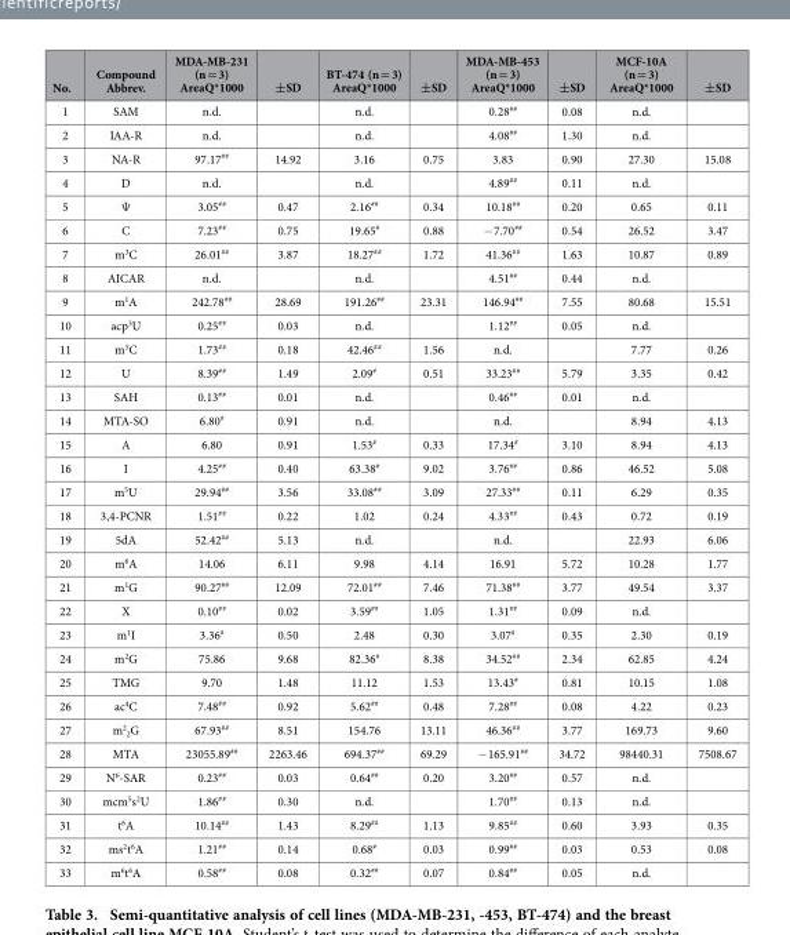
<table><thead><tr><td>No.</td><td>Compound Abbrev.</td><td>MDA-MB-231 (n = 3) AreaQ*1000</td><td>±SD</td><td>BT-474 (n = 3) AreaQ*1000</td><td>±SD</td><td>MDA-MB-453 (n = 3) AreaQ*1000</td><td>±SD</td><td>MCF-10A (n = 3) AreaQ*1000</td><td>±SD</td></tr></thead><tbody><tr><td>1</td><td>SAM</td><td>n.d.</td><td></td><td>n.d.</td><td></td><td>0.28<sup>##</sup></td><td>0.08</td><td>n.d.</td><td></td></tr><tr><td>2</td><td>IAA-R</td><td>n.d.</td><td></td><td>n.d.</td><td></td><td>4.08<sup>##</sup></td><td>1.30</td><td>n.d.</td><td></td></tr><tr><td>3</td><td>NA-R</td><td>97.17<sup>##</sup></td><td>14.92</td><td>3.16</td><td>0.75</td><td>3.83</td><td>0.90</td><td>27.30</td><td>15.08</td></tr><tr><td>4</td><td>D</td><td>n.d.</td><td></td><td>n.d.</td><td></td><td>4.89<sup>##</sup></td><td>0.11</td><td>n.d.</td><td></td></tr><tr><td>5</td><td>Ψ</td><td>3.05<sup>##</sup></td><td>0.47</td><td>2.16<sup>##</sup></td><td>0.34</td><td>10.18<sup>##</sup></td><td>0.20</td><td>0.65</td><td>0.11</td></tr><tr><td>6</td><td>C</td><td>7.23<sup>##</sup></td><td>0.75</td><td>19.65<sup>#</sup></td><td>0.88</td><td>− 7.70<sup>##</sup></td><td>0.54</td><td>26.52</td><td>3.47</td></tr><tr><td>7</td><td>m<sup>3</sup>C</td><td>26.01<sup>##</sup></td><td>3.87</td><td>18.27<sup>##</sup></td><td>1.72</td><td>41.36<sup>##</sup></td><td>1.63</td><td>10.87</td><td>0.89</td></tr><tr><td>8</td><td>AICAR</td><td>n.d.</td><td></td><td>n.d.</td><td></td><td>4.51<sup>##</sup></td><td>0.44</td><td>n.d.</td><td></td></tr><tr><td>9</td><td>m<sup>1</sup>A</td><td>242.78<sup>##</sup></td><td>28.69</td><td>191.26<sup>##</sup></td><td>23.31</td><td>146.94<sup>##</sup></td><td>7.55</td><td>80.68</td><td>15.51</td></tr><tr><td>10</td><td>acp<sup>3</sup>U</td><td>0.25<sup>##</sup></td><td>0.03</td><td>n.d.</td><td></td><td>1.12<sup>##</sup></td><td>0.05</td><td>n.d.</td><td></td></tr><tr><td>11</td><td>m<sup>5</sup>C</td><td>1.73<sup>##</sup></td><td>0.18</td><td>42.46<sup>##</sup></td><td>1.56</td><td>n.d.</td><td></td><td>7.77</td><td>0.26</td></tr><tr><td>12</td><td>U</td><td>8.39<sup>##</sup></td><td>1.49</td><td>2.09<sup>#</sup></td><td>0.51</td><td>33.23<sup>##</sup></td><td>5.79</td><td>3.35</td><td>0.42</td></tr><tr><td>13</td><td>SAH</td><td>0.13<sup>##</sup></td><td>0.01</td><td>n.d.</td><td></td><td>0.46<sup>##</sup></td><td>0.01</td><td>n.d.</td><td></td></tr><tr><td>14</td><td>MTA-SO</td><td>6.80<sup>#</sup></td><td>0.91</td><td>n.d.</td><td></td><td>n.d.</td><td></td><td>8.94</td><td>4.13</td></tr><tr><td>15</td><td>A</td><td>6.80</td><td>0.91</td><td>1.53<sup>#</sup></td><td>0.33</td><td>17.34<sup>#</sup></td><td>3.10</td><td>8.94</td><td>4.13</td></tr><tr><td>16</td><td>I</td><td>4.25<sup>##</sup></td><td>0.40</td><td>63.38<sup>#</sup></td><td>9.02</td><td>3.76<sup>##</sup></td><td>0.86</td><td>46.52</td><td>5.08</td></tr><tr><td>17</td><td>m<sup>5</sup>U</td><td>29.94<sup>##</sup></td><td>3.56</td><td>33.08<sup>##</sup></td><td>3.09</td><td>27.33<sup>##</sup></td><td>0.11</td><td>6.29</td><td>0.35</td></tr><tr><td>18</td><td>3,4-PCNR</td><td>1.51<sup>##</sup></td><td>0.22</td><td>1.02</td><td>0.24</td><td>4.33<sup>##</sup></td><td>0.43</td><td>0.72</td><td>0.19</td></tr><tr><td>19</td><td>5dA</td><td>52.42<sup>##</sup></td><td>5.13</td><td>n.d.</td><td></td><td>n.d.</td><td></td><td>22.93</td><td>6.06</td></tr><tr><td>20</td><td>m<sup>6</sup>A</td><td>14.06</td><td>6.11</td><td>9.98</td><td>4.14</td><td>16.91</td><td>5.72</td><td>10.28</td><td>1.77</td></tr><tr><td>21</td><td>m<sup>1</sup>G</td><td>90.27<sup>##</sup></td><td>12.09</td><td>72.01<sup>##</sup></td><td>7.46</td><td>71.38<sup>##</sup></td><td>3.77</td><td>49.54</td><td>3.37</td></tr><tr><td>22</td><td>X</td><td>0.10<sup>##</sup></td><td>0.02</td><td>3.59<sup>##</sup></td><td>1.05</td><td>1.31<sup>##</sup></td><td>0.09</td><td>n.d.</td><td></td></tr><tr><td>23</td><td>m<sup>1</sup>I</td><td>3.36<sup>#</sup></td><td>0.50</td><td>2.48</td><td>0.30</td><td>3.07<sup>#</sup></td><td>0.35</td><td>2.30</td><td>0.19</td></tr><tr><td>24</td><td>m<sup>2</sup>G</td><td>75.86</td><td>9.68</td><td>82.36<sup>#</sup></td><td>8.38</td><td>34.52<sup>##</sup></td><td>2.34</td><td>62.85</td><td>4.24</td></tr><tr><td>25</td><td>TMG</td><td>9.70</td><td>1.48</td><td>11.12</td><td>1.53</td><td>13.43<sup>#</sup></td><td>0.81</td><td>10.15</td><td>1.08</td></tr><tr><td>26</td><td>ac<sup>4</sup>C</td><td>7.48<sup>##</sup></td><td>0.92</td><td>5.62<sup>##</sup></td><td>0.48</td><td>7.28<sup>##</sup></td><td>0.08</td><td>4.22</td><td>0.23</td></tr><tr><td>27</td><td>m<sup>2</sup> <sub>2</sub>G</td><td>67.93<sup>##</sup></td><td>8.51</td><td>154.76</td><td>13.11</td><td>46.36<sup>##</sup></td><td>3.77</td><td>169.73</td><td>9.60</td></tr><tr><td>28</td><td>MTA</td><td>23055.89<sup>##</sup></td><td>2263.46</td><td>694.37<sup>##</sup></td><td>69.29</td><td>− 165.91<sup>##</sup></td><td>34.72</td><td>98440.31</td><td>7508.67</td></tr><tr><td>29</td><td>N<sup>6</sup>-SAR</td><td>0.23<sup>##</sup></td><td>0.03</td><td>0.64<sup>##</sup></td><td>0.20</td><td>3.20<sup>##</sup></td><td>0.57</td><td>n.d.</td><td></td></tr><tr><td>30</td><td>mcm<sup>5</sup>s<sup>2</sup>U</td><td>1.86<sup>##</sup></td><td>0.30</td><td>n.d.</td><td></td><td>1.70<sup>##</sup></td><td>0.13</td><td>n.d.</td><td></td></tr><tr><td>31</td><td>t<sup>6</sup>A</td><td>10.14<sup>##</sup></td><td>1.43</td><td>8.29<sup>##</sup></td><td>1.13</td><td>9.85<sup>##</sup></td><td>0.60</td><td>3.93</td><td>0.35</td></tr><tr><td>32</td><td>ms<sup>2</sup>t<sup>6</sup>A</td><td>1.21<sup>##</sup></td><td>0.14</td><td>0.68<sup>#</sup></td><td>0.03</td><td>0.99<sup>##</sup></td><td>0.03</td><td>0.53</td><td>0.08</td></tr><tr><td>33</td><td>m<sup>6</sup>t<sup>6</sup>A</td><td>0.58<sup>##</sup></td><td>0.08</td><td>0.32<sup>##</sup></td><td>0.07</td><td>0.84<sup>##</sup></td><td>0.05</td><td>n.d.</td><td></td></tr></tbody></table>